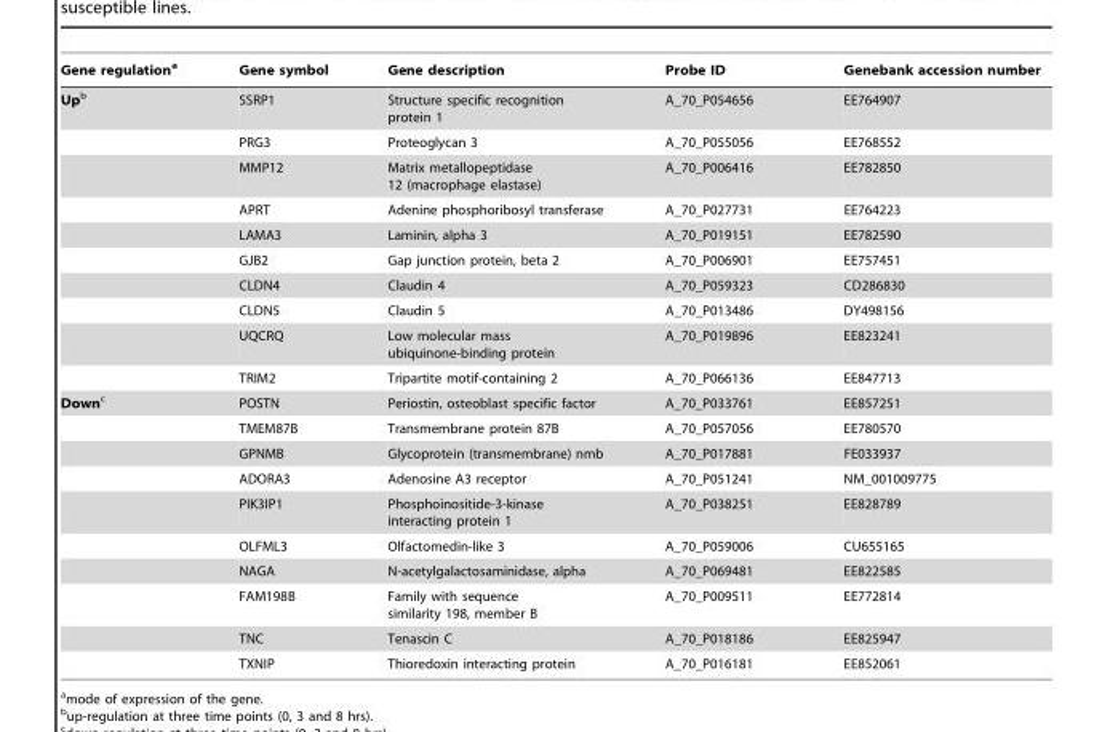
<table><thead><tr><td>Gene regulation<sup>a</sup></td><td>Gene symbol</td><td>Gene description</td><td>Probe ID</td><td>Genebank accession number</td></tr></thead><tbody><tr><td rowspan="10">Upb</td><td>SSRP1</td><td>Structure specific recognition protein 1</td><td>A_70_P054656</td><td>EE764907</td></tr><tr><td>PRG3</td><td>Proteoglycan 3</td><td>A_70_P055056</td><td>EE768552</td></tr><tr><td>MMP12</td><td>Matrix metallopeptidase 12 (macrophage elastase)</td><td>A_70_P006416</td><td>EE782850</td></tr><tr><td>APRT</td><td>Adenine phosphoribosyl transferase</td><td>A_70_P027731</td><td>EE764223</td></tr><tr><td>LAMA3</td><td>Laminin, alpha 3</td><td>A_70_P019151</td><td>EE782590</td></tr><tr><td>GJB2</td><td>Gap junction protein, beta 2</td><td>A_70_P006901</td><td>EE757451</td></tr><tr><td>CLDN4</td><td>Claudin 4</td><td>A_70_P059323</td><td>CD286830</td></tr><tr><td>CLDN5</td><td>Claudin 5</td><td>A_70_P013486</td><td>DY498156</td></tr><tr><td>UQCRQ</td><td>Low molecular mass ubiquinone-binding protein</td><td>A_70_P019896</td><td>EE823241</td></tr><tr><td>TRIM2</td><td>Tripartite motif-containing 2</td><td>A_70_P066136</td><td>EE847713</td></tr><tr><td rowspan="10">Downc</td><td>POSTN</td><td>Periostin, osteoblast specific factor</td><td>A_70_P033761</td><td>EE857251</td></tr><tr><td>TMEM87B</td><td>Transmembrane protein 87B</td><td>A_70_P057056</td><td>EE780570</td></tr><tr><td>GPNMB</td><td>Glycoprotein (transmembrane) nmb</td><td>A_70_P017881</td><td>FE033937</td></tr><tr><td>ADORA3</td><td>Adenosine A3 receptor</td><td>A_70_P051241</td><td>NM_001009775</td></tr><tr><td>PIK3IP1</td><td>Phosphoinositide-3-kinase interacting protein 1</td><td>A_70_P038251</td><td>EE828789</td></tr><tr><td>OLFML3</td><td>Olfactomedin-like 3</td><td>A_70_P059006</td><td>CU655165</td></tr><tr><td>NAGA</td><td>N-acetylgalactosaminidase, alpha</td><td>A_70_P069481</td><td>EE822585</td></tr><tr><td>FAM198B</td><td>Family with sequence similarity 198, member B</td><td>A_70_P009511</td><td>EE772814</td></tr><tr><td>TNC</td><td>Tenascin C</td><td>A_70_P018186</td><td>EE825947</td></tr><tr><td>TXNIP</td><td>Thioredoxin interacting protein</td><td>A_70_P016181</td><td>EE852061</td></tr></tbody></table>